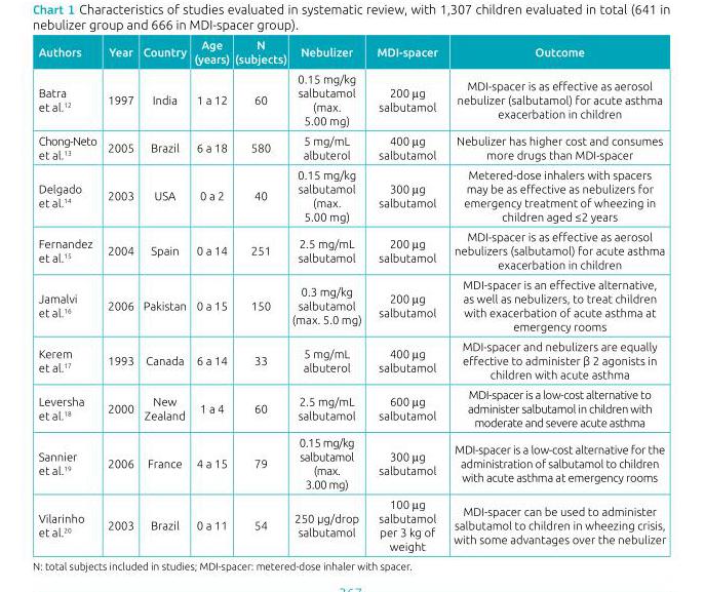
<table><thead><tr><td>Authors</td><td>Year</td><td>Country</td><td>Age (years)</td><td>N (subjects)</td><td>Nebulizer</td><td>MDI‑spacer</td><td>Outcome</td></tr></thead><tbody><tr><td>Batra et al.<sup>12</sup></td><td>1997</td><td>India</td><td>1 a 12</td><td>60</td><td>0.15 mg/kg salbutamol (max. 5.00 mg)</td><td>200 μg salbutamol</td><td>MDI‑spacer is as effective as aerosol nebulizer (salbutamol) for acute asthma exacerbation in children</td></tr><tr><td>Chong‑Neto et al.<sup>13</sup></td><td>2005</td><td>Brazil</td><td>6 a 18</td><td>580</td><td>5 mg/mL albuterol</td><td>400 μg salbutamol</td><td>Nebulizer has higher cost and consumes more drugs than MDI‑spacer</td></tr><tr><td>Delgado et al.<sup>14</sup></td><td>2003</td><td>USA</td><td>0 a 2</td><td>40</td><td>0.15 mg/kg salbutamol (max. 5.00 mg)</td><td>300 μg salbutamol</td><td>Metered‑dose inhalers with spacers may be as effective as nebulizers for emergency treatment of wheezing in children aged ≤2 years</td></tr><tr><td>Fernandez et al.<sup>15</sup></td><td>2004</td><td>Spain</td><td>0 a 14</td><td>251</td><td>2.5 mg/mL salbutamol</td><td>200 μg salbutamol</td><td>MDI‑spacer is as effective as aerosol nebulizers (salbutamol) for acute asthma exacerbation in children</td></tr><tr><td>Jamalvi et al.<sup>16</sup></td><td>2006</td><td>Pakistan</td><td>0 a 15</td><td>150</td><td>0.3 mg/kg salbutamol (max. 5.0 mg)</td><td>200 μg salbutamol</td><td>MDI‑spacer is an effective alternative, as well as nebulizers, to treat children with exacerbation of acute asthma at emergency rooms</td></tr><tr><td>Kerem et al.<sup>17</sup></td><td>1993</td><td>Canada</td><td>6 a 14</td><td>33</td><td>5 mg/mL albuterol</td><td>400 μg salbutamol</td><td>MDI‑spacer and nebulizers are equally effective to administer β 2 agonists in children with acute asthma</td></tr><tr><td>Leversha et al.<sup>18</sup></td><td>2000</td><td>New Zealand</td><td>1 a 4</td><td>60</td><td>2.5 mg/mL salbutamol</td><td>600 μg salbutamol</td><td>MDI‑spacer is a low‑cost alternative to administer salbutamol in children with moderate and severe acute asthma</td></tr><tr><td>Sannier et al.<sup>19</sup></td><td>2006</td><td>France</td><td>4 a 15</td><td>79</td><td>0.15 mg/kg salbutamol (max. 3.00 mg)</td><td>300 μg salbutamol</td><td>MDI‑spacer is a low‑cost alternative for the administration of salbutamol to children with acute asthma at emergency rooms</td></tr><tr><td>Vilarinho et al.<sup>20</sup></td><td>2003</td><td>Brazil</td><td>0 a 11</td><td>54</td><td>250 μg/drop salbutamol</td><td>100 μg salbutamol per 3 kg of weight</td><td>MDI‑spacer can be used to administer salbutamol to children in wheezing crisis, with some advantages over the nebulizer</td></tr></tbody></table>